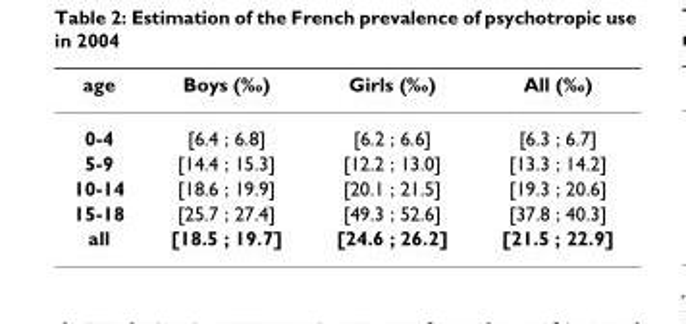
<table><thead><tr><td>age</td><td>Boys (‰)</td><td>Girls (‰)</td><td>All (‰)</td></tr></thead><tbody><tr><td>0-4</td><td>[6.4 ; 6.8]</td><td>[6.2 ; 6.6]</td><td>[6.3 ; 6.7]</td></tr><tr><td>5-9</td><td>[14.4 ; 15.3]</td><td>[12.2 ; 13.0]</td><td>[13.3 ; 14.2]</td></tr><tr><td>10-14</td><td>[18.6 ; 19.9]</td><td>[20.1 ; 21.5]</td><td>[19.3 ; 20.6]</td></tr><tr><td>15-18</td><td>[25.7 ; 27.4]</td><td>[49.3 ; 52.6]</td><td>[37.8 ; 40.3]</td></tr><tr><td>all</td><td>[18.5 ; 19.7]</td><td>[24.6 ; 26.2]</td><td>[21.5 ; 22.9]</td></tr></tbody></table>